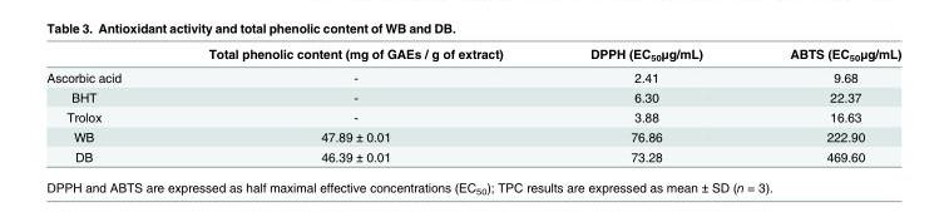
<table><thead><tr><td></td><td>Total phenolic content (mg of GAEs / g of extract)</td><td>DPPH (EC<sub>50</sub>μg/mL)</td><td>ABTS (EC<sub>50</sub>μg/mL)</td></tr></thead><tbody><tr><td>Ascorbic acid</td><td>-</td><td>2.41</td><td>9.68</td></tr><tr><td>BHT</td><td>-</td><td>6.30</td><td>22.37</td></tr><tr><td>Trolox</td><td>-</td><td>3.88</td><td>16.63</td></tr><tr><td>WB</td><td>47.89 ± 0.01</td><td>76.86</td><td>222.90</td></tr><tr><td>DB</td><td>46.39 ± 0.01</td><td>73.28</td><td>469.60</td></tr></tbody></table>